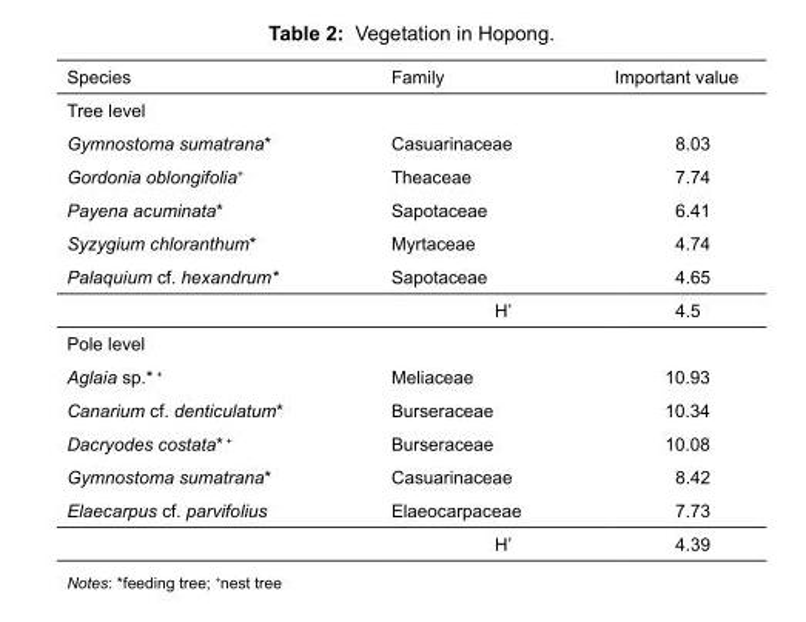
<table><thead><tr><td>Species</td><td>Family</td><td>Important value</td></tr></thead><tbody><tr><td colspan="3">Tree level</td></tr><tr><td>Gymnostoma sumatrana*</td><td>Casuarinaceae</td><td>8.03</td></tr><tr><td>Gordonia oblongifolia+</td><td>Theaceae</td><td>7.74</td></tr><tr><td>Payena acuminata*</td><td>Sapotaceae</td><td>6.41</td></tr><tr><td>Syzygium chloranthum*</td><td>Myrtaceae</td><td>4.74</td></tr><tr><td rowspan="2">Palaquium cf. hexandrum*</td><td>Sapotaceae</td><td>4.65</td></tr><tr><td>H’</td><td>4.5</td></tr><tr><td colspan="3">Pole level</td></tr><tr><td>Aglaia sp.* +</td><td>Meliaceae</td><td>10.93</td></tr><tr><td>Canarium cf. denticulatum*</td><td>Burseraceae</td><td>10.34</td></tr><tr><td>Dacryodes costata<sup>* +</sup></td><td>Burseraceae</td><td>10.08</td></tr><tr><td>Gymnostoma sumatrana*</td><td>Casuarinaceae</td><td>8.42</td></tr><tr><td rowspan="2">Elaecarpus cf. parvifolius</td><td>Elaeocarpaceae</td><td>7.73</td></tr><tr><td>H’</td><td>4.39</td></tr></tbody></table>